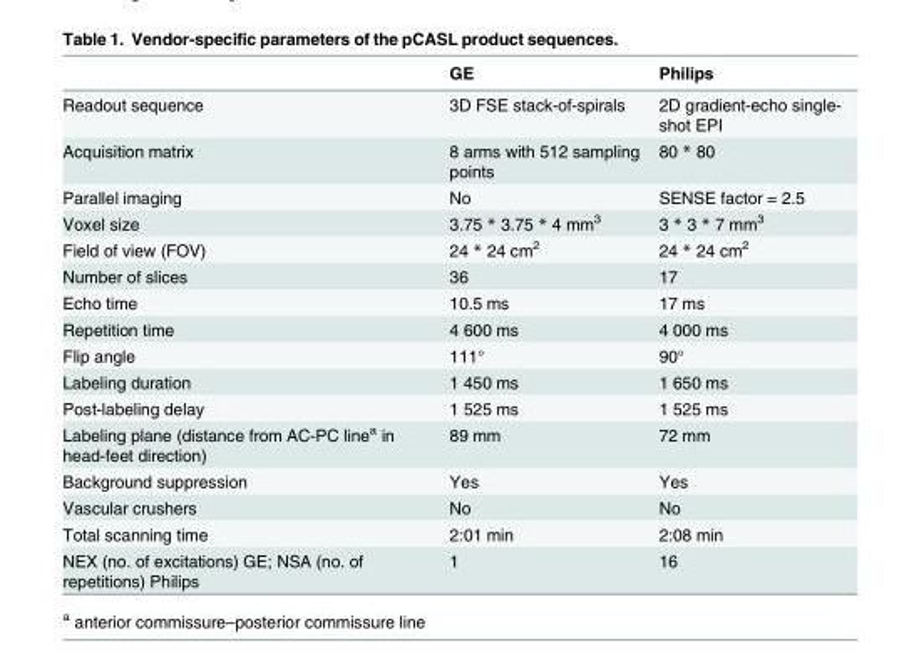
<table><thead><tr><td></td><td>GE</td><td>Philips</td></tr></thead><tbody><tr><td>Readout sequence</td><td>3D FSE stack-of-spirals</td><td>2D gradient-echo single- shot EPI</td></tr><tr><td>Acquisition matrix</td><td>8 arms with 512 sampling points</td><td>80 * 80</td></tr><tr><td>Parallel imaging</td><td>No</td><td>SENSE factor = 2.5</td></tr><tr><td>Voxel size</td><td>3.75 * 3.75 * 4 mm<sup>3</sup></td><td>3 * 3 * 7 mm<sup>3</sup></td></tr><tr><td>Field of view (FOV)</td><td>24 * 24 cm<sup>2</sup></td><td>24 * 24 cm<sup>2</sup></td></tr><tr><td>Number of slices</td><td>36</td><td>17</td></tr><tr><td>Echo time</td><td>10.5 ms</td><td>17 ms</td></tr><tr><td>Repetition time</td><td>4 600 ms</td><td>4 000 ms</td></tr><tr><td>Flip angle</td><td>111°</td><td>90°</td></tr><tr><td>Labeling duration</td><td>1 450 ms</td><td>1 650 ms</td></tr><tr><td>Post-labeling delay</td><td>1 525 ms</td><td>1 525 ms</td></tr><tr><td>Labeling plane (distance from AC-PC line<sup>a</sup> in head-feet direction)</td><td>89 mm</td><td>72 mm</td></tr><tr><td>Background suppression</td><td>Yes</td><td>Yes</td></tr><tr><td>Vascular crushers</td><td>No</td><td>No</td></tr><tr><td>Total scanning time</td><td>2:01 min</td><td>2:08 min</td></tr><tr><td>NEX (no. of excitations) GE; NSA (no. of repetitions) Philips</td><td>1</td><td>16</td></tr></tbody></table>